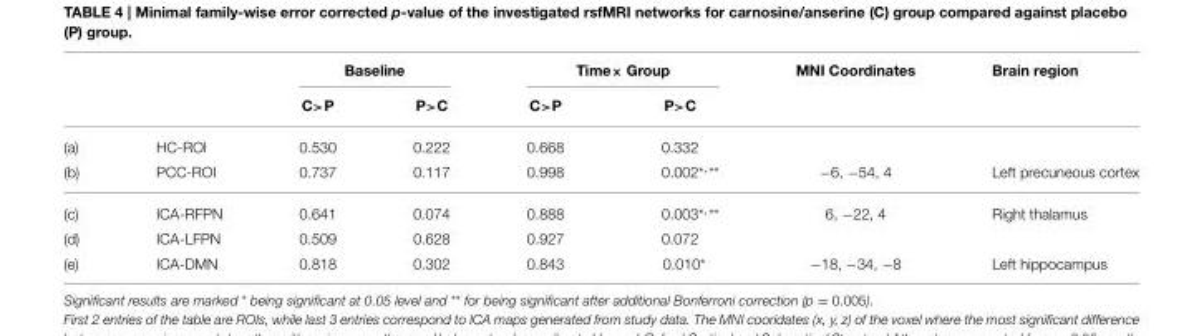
<table><thead><tr><td rowspan="2"></td><td rowspan="2"></td><td colspan="2">Baseline</td><td colspan="2">Time× Group</td><td rowspan="2">MNI Coordinates</td><td rowspan="2">Brain region</td></tr><tr><td>C&gt;P</td><td>P&gt;C</td><td>C&gt;P</td><td>P&gt;C</td></tr></thead><tbody><tr><td>(a)</td><td>HC-ROI</td><td>0.530</td><td>0.222</td><td>0.668</td><td>0.332</td><td></td><td></td></tr><tr><td>(b)</td><td>PCC-ROI</td><td>0.737</td><td>0.117</td><td>0.998</td><td>0.002<sup>*,**</sup></td><td>−6, −54, 4</td><td>Left precuneous cortex</td></tr><tr><td>(c)</td><td>ICA-RFPN</td><td>0.641</td><td>0.074</td><td>0.888</td><td>0.003<sup>*,**</sup></td><td>6, −22, 4</td><td>Right thalamus</td></tr><tr><td>(d)</td><td>ICA-LFPN</td><td>0.509</td><td>0.628</td><td>0.927</td><td>0.072</td><td></td><td></td></tr><tr><td>(e)</td><td>ICA-DMN</td><td>0.818</td><td>0.302</td><td>0.843</td><td>0.010*</td><td>−18, −34, −8</td><td>Left hippocampus</td></tr></tbody></table>